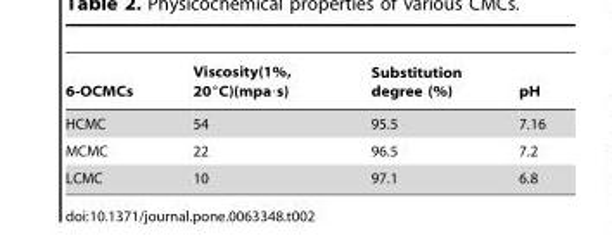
<table><thead><tr><td>6-OCMCs</td><td>Viscosity(1%, 20°C)(mpa⋅s)</td><td>Substitution degree (%)</td><td>pH</td></tr></thead><tbody><tr><td>HCMC</td><td>54</td><td>95.5</td><td>7.16</td></tr><tr><td>MCMC</td><td>22</td><td>96.5</td><td>7.2</td></tr><tr><td>LCMC</td><td>10</td><td>97.1</td><td>6.8</td></tr></tbody></table>